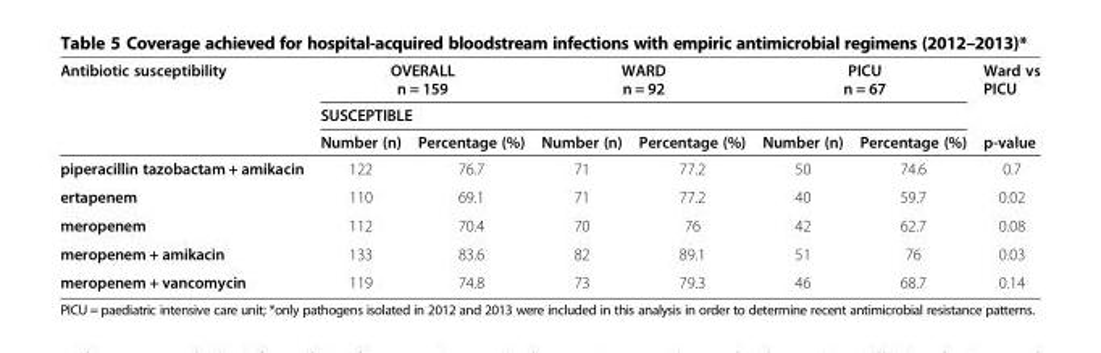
<table><thead><tr><td rowspan="3">Antibiotic susceptibility</td><td colspan="2">OVERALL n = 159</td><td colspan="2">WARD n = 92</td><td colspan="2">PICU n = 67</td><td rowspan="3">Ward vs PICU p-value</td></tr><tr><td colspan="6">SUSCEPTIBLE</td></tr><tr><td>Number (n)</td><td>Percentage (%)</td><td>Number (n)</td><td>Percentage (%)</td><td>Number (n)</td><td>Percentage (%)</td></tr></thead><tbody><tr><td>piperacillin tazobactam + amikacin</td><td>122</td><td>76.7</td><td>71</td><td>77.2</td><td>50</td><td>74.6</td><td>0.7</td></tr><tr><td>ertapenem</td><td>110</td><td>69.1</td><td>71</td><td>77.2</td><td>40</td><td>59.7</td><td>0.02</td></tr><tr><td>meropenem</td><td>112</td><td>70.4</td><td>70</td><td>76</td><td>42</td><td>62.7</td><td>0.08</td></tr><tr><td>meropenem + amikacin</td><td>133</td><td>83.6</td><td>82</td><td>89.1</td><td>51</td><td>76</td><td>0.03</td></tr><tr><td>meropenem + vancomycin</td><td>119</td><td>74.8</td><td>73</td><td>79.3</td><td>46</td><td>68.7</td><td>0.14</td></tr></tbody></table>